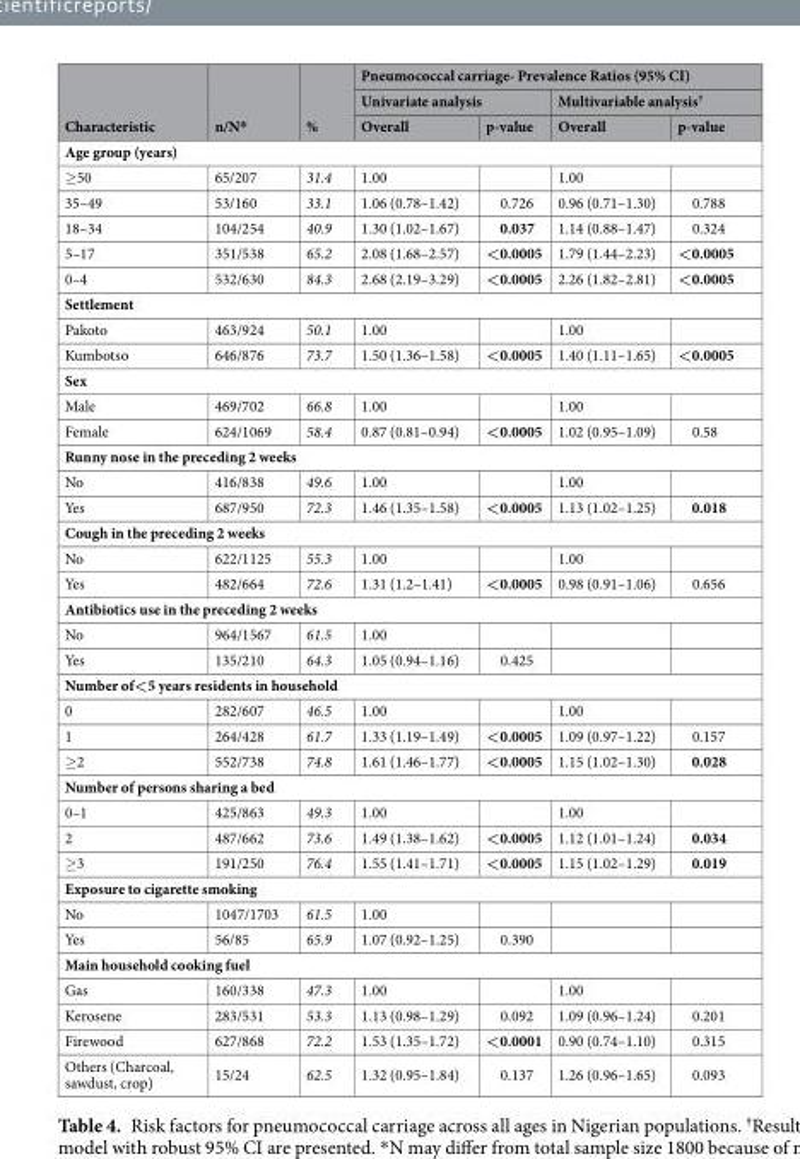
<table><thead><tr><td rowspan="3">Characteristic</td><td rowspan="3">n/N*</td><td rowspan="3">%</td><td colspan="4">Pneumococcal carriage- Prevalence Ratios (95% CI)</td></tr><tr><td colspan="2">Univariate analysis</td><td colspan="2">Multivariable analysis<sup>†</sup></td></tr><tr><td>Overall</td><td>p-value</td><td>Overall</td><td>p-value</td></tr></thead><tbody><tr><td colspan="7">Age group (years)</td></tr><tr><td>≥50</td><td>65/207</td><td>31.4</td><td>1.00</td><td></td><td>1.00</td><td></td></tr><tr><td>35–49</td><td>53/160</td><td>33.1</td><td>1.06 (0.78–1.42)</td><td>0.726</td><td>0.96 (0.71–1.30)</td><td>0.788</td></tr><tr><td>18–34</td><td>104/254</td><td>40.9</td><td>1.30 (1.02–1.67)</td><td>0.037</td><td>1.14 (0.88–1.47)</td><td>0.324</td></tr><tr><td>5–17</td><td>351/538</td><td>65.2</td><td>2.08 (1.68–2.57)</td><td>&lt;0.0005</td><td>1.79 (1.44–2.23)</td><td>&lt;0.0005</td></tr><tr><td>0–4</td><td>532/630</td><td>84.3</td><td>2.68 (2.19–3.29)</td><td>&lt;0.0005</td><td>2.26 (1.82–2.81)</td><td>&lt;0.0005</td></tr><tr><td colspan="7">Settlement</td></tr><tr><td>Pakoto</td><td>463/924</td><td>50.1</td><td>1.00</td><td></td><td>1.00</td><td></td></tr><tr><td>Kumbotso</td><td>646/876</td><td>73.7</td><td>1.50 (1.36–1.58)</td><td>&lt;0.0005</td><td>1.40 (1.11–1.65)</td><td>&lt;0.0005</td></tr><tr><td colspan="7">Sex</td></tr><tr><td>Male</td><td>469/702</td><td>66.8</td><td>1.00</td><td></td><td>1.00</td><td></td></tr><tr><td>Female</td><td>624/1069</td><td>58.4</td><td>0.87 (0.81–0.94)</td><td>&lt;0.0005</td><td>1.02 (0.95–1.09)</td><td>0.58</td></tr><tr><td colspan="7">Runny nose in the preceding 2 weeks</td></tr><tr><td>No</td><td>416/838</td><td>49.6</td><td>1.00</td><td></td><td>1.00</td><td></td></tr><tr><td>Yes</td><td>687/950</td><td>72.3</td><td>1.46 (1.35–1.58)</td><td>&lt;0.0005</td><td>1.13 (1.02–1.25)</td><td>0.018</td></tr><tr><td colspan="7">Cough in the preceding 2 weeks</td></tr><tr><td>No</td><td>622/1125</td><td>55.3</td><td>1.00</td><td></td><td>1.00</td><td></td></tr><tr><td>Yes</td><td>482/664</td><td>72.6</td><td>1.31 (1.2–1.41)</td><td>&lt;0.0005</td><td>0.98 (0.91–1.06)</td><td>0.656</td></tr><tr><td colspan="7">Antibiotics use in the preceding 2 weeks</td></tr><tr><td>No</td><td>964/1567</td><td>61.5</td><td>1.00</td><td></td><td></td><td></td></tr><tr><td>Yes</td><td>135/210</td><td>64.3</td><td>1.05 (0.94–1.16)</td><td>0.425</td><td></td><td></td></tr><tr><td colspan="7">Number of&lt;5 years residents in household</td></tr><tr><td>0</td><td>282/607</td><td>46.5</td><td>1.00</td><td></td><td>1.00</td><td></td></tr><tr><td>1</td><td>264/428</td><td>61.7</td><td>1.33 (1.19–1.49)</td><td>&lt;0.0005</td><td>1.09 (0.97–1.22)</td><td>0.157</td></tr><tr><td>≥2</td><td>552/738</td><td>74.8</td><td>1.61 (1.46–1.77)</td><td>&lt;0.0005</td><td>1.15 (1.02–1.30)</td><td>0.028</td></tr><tr><td colspan="7">Number of persons sharing a bed</td></tr><tr><td>0–1</td><td>425/863</td><td>49.3</td><td>1.00</td><td></td><td>1.00</td><td></td></tr><tr><td>2</td><td>487/662</td><td>73.6</td><td>1.49 (1.38–1.62)</td><td>&lt;0.0005</td><td>1.12 (1.01–1.24)</td><td>0.034</td></tr><tr><td>≥3</td><td>191/250</td><td>76.4</td><td>1.55 (1.41–1.71)</td><td>&lt;0.0005</td><td>1.15 (1.02–1.29)</td><td>0.019</td></tr><tr><td colspan="7">Exposure to cigarette smoking</td></tr><tr><td>No</td><td>1047/1703</td><td>61.5</td><td>1.00</td><td></td><td></td><td></td></tr><tr><td>Yes</td><td>56/85</td><td>65.9</td><td>1.07 (0.92–1.25)</td><td>0.390</td><td></td><td></td></tr><tr><td colspan="7">Main household cooking fuel</td></tr><tr><td>Gas</td><td>160/338</td><td>47.3</td><td>1.00</td><td></td><td>1.00</td><td></td></tr><tr><td>Kerosene</td><td>283/531</td><td>53.3</td><td>1.13 (0.98–1.29)</td><td>0.092</td><td>1.09 (0.96–1.24)</td><td>0.201</td></tr><tr><td>Firewood</td><td>627/868</td><td>72.2</td><td>1.53 (1.35–1.72)</td><td>&lt;0.0001</td><td>0.90 (0.74–1.10)</td><td>0.315</td></tr><tr><td>Others (Charcoal, sawdust, crop)</td><td>15/24</td><td>62.5</td><td>1.32 (0.95–1.84)</td><td>0.137</td><td>1.26 (0.96–1.65)</td><td>0.093</td></tr></tbody></table>